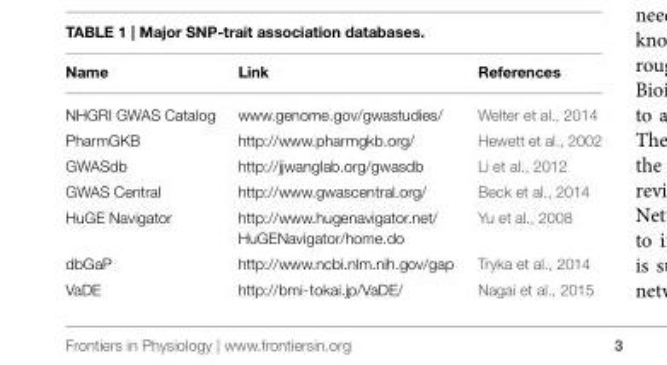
<table><thead><tr><td>Name</td><td>Link</td><td>References</td></tr></thead><tbody><tr><td>NHGRI GWAS Catalog</td><td>www.genome.gov/gwastudies/</td><td>Welter et al., 2014</td></tr><tr><td>PharmGKB</td><td>http://www.pharmgkb.org/</td><td>Hewett et al., 2002</td></tr><tr><td>GWASdb</td><td>http://jjwanglab.org/gwasdb</td><td>Li et al., 2012</td></tr><tr><td>GWAS Central</td><td>http://www.gwascentral.org/</td><td>Beck et al., 2014</td></tr><tr><td>HuGE Navigator</td><td>http://www.hugenavigator.net/ HuGENavigator/home.do</td><td>Yu et al., 2008</td></tr><tr><td>dbGaP</td><td>http://www.ncbi.nlm.nih.gov/gap</td><td>Tryka et al., 2014</td></tr><tr><td>VaDE</td><td>http://bmi-tokai.jp/VaDE/</td><td>Nagai et al., 2015</td></tr></tbody></table>